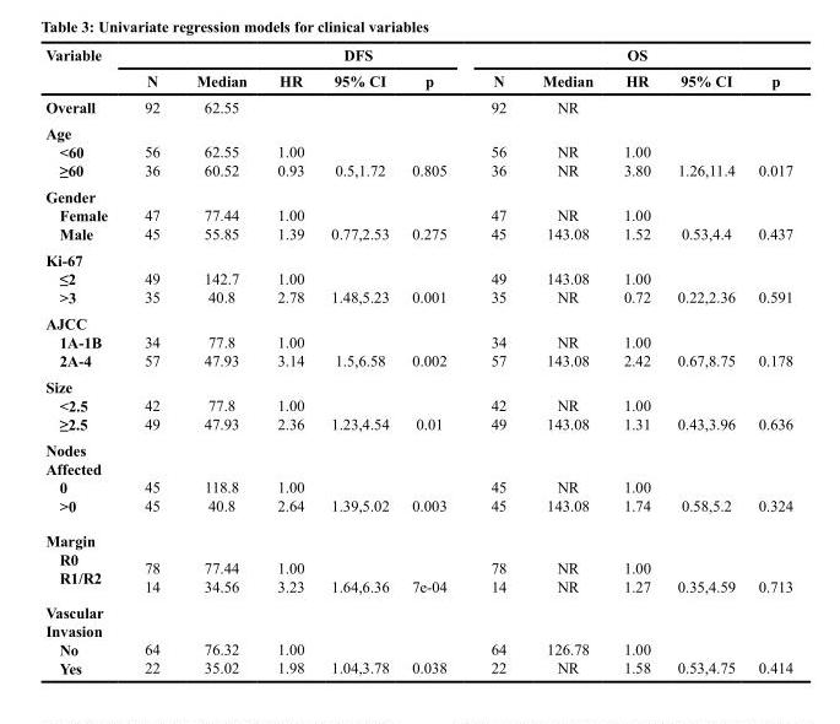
<table><thead><tr><td rowspan="2">Variable</td><td colspan="5">DFS</td><td colspan="5">OS</td></tr><tr><td>N</td><td>Median</td><td>HR</td><td>95% CI</td><td>p</td><td>N</td><td>Median</td><td>HR</td><td>95% CI</td><td>p</td></tr></thead><tbody><tr><td>Overall</td><td>92</td><td>62.55</td><td></td><td></td><td></td><td>92</td><td>NR</td><td colspan="3"></td></tr><tr><td>Age &lt;60 ≥60</td><td>56 36</td><td>62.55 60.52</td><td>1.00 0.93</td><td>0.5,1.72</td><td>0.805</td><td>56 36</td><td>NR NR</td><td>1.00 3.80</td><td>1.26,11.4</td><td>0.017</td></tr><tr><td>Gender Female Male</td><td>47 45</td><td>77.44 55.85</td><td>1.00 1.39</td><td>0.77,2.53</td><td>0.275</td><td>47 45</td><td>NR 143.08</td><td>1.00 1.52</td><td>0.53,4.4</td><td>0.437</td></tr><tr><td>Ki-67 ≤2 &gt;3</td><td>49 35</td><td>142.7 40.8</td><td>1.00 2.78</td><td>1.48,5.23</td><td>0.001</td><td>49 35</td><td>143.08 NR</td><td>1.00 0.72</td><td>0.22,2.36</td><td>0.591</td></tr><tr><td>AJCC 1A-1B 2A-4</td><td>34 57</td><td>77.8 47.93</td><td>1.00 3.14</td><td>1.5,6.58</td><td>0.002</td><td>34 57</td><td>NR 143.08</td><td>1.00 2.42</td><td>0.67,8.75</td><td>0.178</td></tr><tr><td>Size &lt;2.5 ≥2.5</td><td>42 49</td><td>77.8 47.93</td><td>1.00 2.36</td><td>1.23,4.54</td><td>0.01</td><td>42 49</td><td>NR 143.08</td><td>1.00 1.31</td><td>0.43,3.96</td><td>0.636</td></tr><tr><td>Nodes Affected 0 &gt;0</td><td>45 45</td><td>118.8 40.8</td><td>1.00 2.64</td><td>1.39,5.02</td><td>0.003</td><td>45 45</td><td>NR 143.08</td><td>1.00 1.74</td><td>0.58,5.2</td><td>0.324</td></tr><tr><td>Margin R0 R1/R2</td><td>78 14</td><td>77.44 34.56</td><td>1.00 3.23</td><td>1.64,6.36</td><td>7e-04</td><td>78 14</td><td>NR NR</td><td>1.00 1.27</td><td>0.35,4.59</td><td>0.713</td></tr><tr><td>Vascular Invasion No Yes</td><td>64 22</td><td>76.32 35.02</td><td>1.00 1.98</td><td>1.04,3.78</td><td>0.038</td><td>64 22</td><td>126.78 NR</td><td>1.00 1.58</td><td>0.53,4.75</td><td>0.414</td></tr></tbody></table>